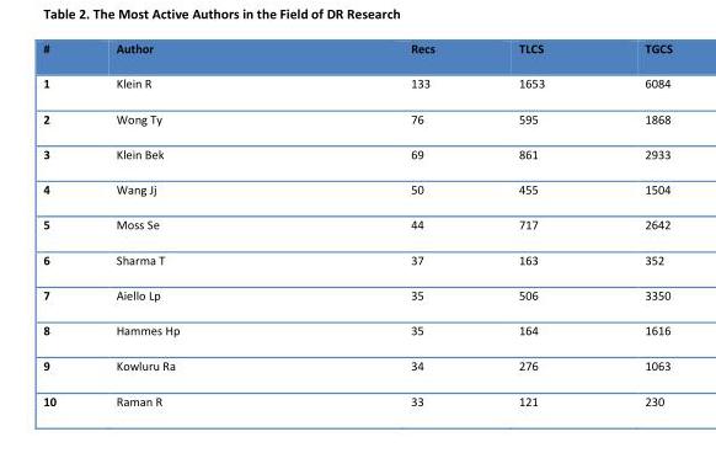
<table><thead><tr><td>#</td><td>Author</td><td>Recs</td><td>TLCS</td><td>TGCS</td></tr></thead><tbody><tr><td>1</td><td>Klein R</td><td>133</td><td>1653</td><td>6084</td></tr><tr><td>2</td><td>Wong Ty</td><td>76</td><td>595</td><td>1868</td></tr><tr><td>3</td><td>Klein Bek</td><td>69</td><td>861</td><td>2933</td></tr><tr><td>4</td><td>Wang Jj</td><td>50</td><td>455</td><td>1504</td></tr><tr><td>5</td><td>Moss Se</td><td>44</td><td>717</td><td>2642</td></tr><tr><td>6</td><td>Sharma T</td><td>37</td><td>163</td><td>352</td></tr><tr><td>7</td><td>Aiello Lp</td><td>35</td><td>506</td><td>3350</td></tr><tr><td>8</td><td>Hammes Hp</td><td>35</td><td>164</td><td>1616</td></tr><tr><td>9</td><td>Kowluru Ra</td><td>34</td><td>276</td><td>1063</td></tr><tr><td>10</td><td>Raman R</td><td>33</td><td>121</td><td>230</td></tr></tbody></table>